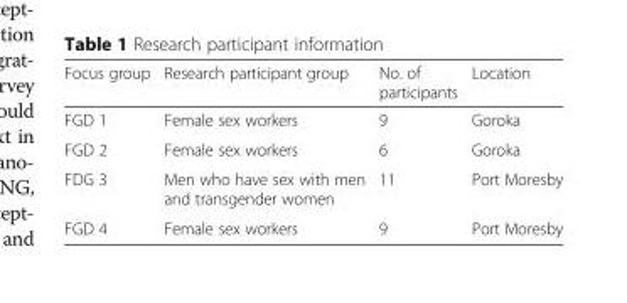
<table><thead><tr><td>Focus group</td><td>Research participant group</td><td>No. of participants</td><td>Location</td></tr></thead><tbody><tr><td>FGD 1</td><td>Female sex workers</td><td>9</td><td>Goroka</td></tr><tr><td>FGD 2</td><td>Female sex workers</td><td>6</td><td>Goroka</td></tr><tr><td>FDG 3</td><td>Men who have sex with men and transgender women</td><td>11</td><td>Port Moresby</td></tr><tr><td>FGD 4</td><td>Female sex workers</td><td>9</td><td>Port Moresby</td></tr></tbody></table>